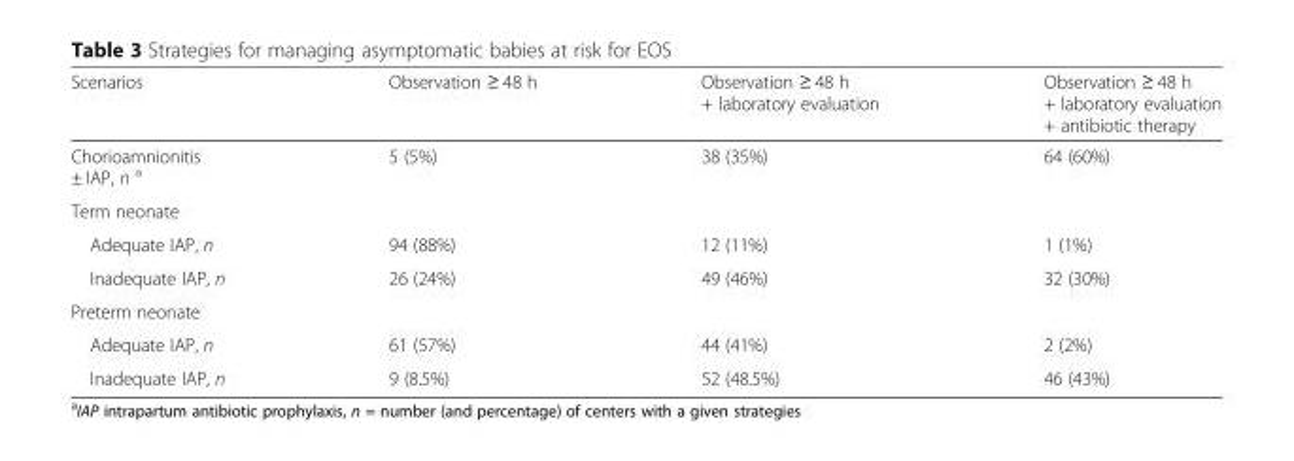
<table><thead><tr><td>Scenarios</td><td>Observation ≥ 48 h</td><td>Observation ≥ 48 h + laboratory evaluation</td><td>Observation ≥ 48 h + laboratory evaluation + antibiotic therapy</td></tr></thead><tbody><tr><td>Chorioamnionitis ± IAP, n <sup>a</sup></td><td>5 (5%)</td><td>38 (35%)</td><td>64 (60%)</td></tr><tr><td colspan="4">Term neonate</td></tr><tr><td>Adequate IAP, n</td><td>94 (88%)</td><td>12 (11%)</td><td>1 (1%)</td></tr><tr><td>Inadequate IAP, n</td><td>26 (24%)</td><td>49 (46%)</td><td>32 (30%)</td></tr><tr><td colspan="4">Preterm neonate</td></tr><tr><td>Adequate IAP, n</td><td>61 (57%)</td><td>44 (41%)</td><td>2 (2%)</td></tr><tr><td>Inadequate IAP, n</td><td>9 (8.5%)</td><td>52 (48.5%)</td><td>46 (43%)</td></tr></tbody></table>